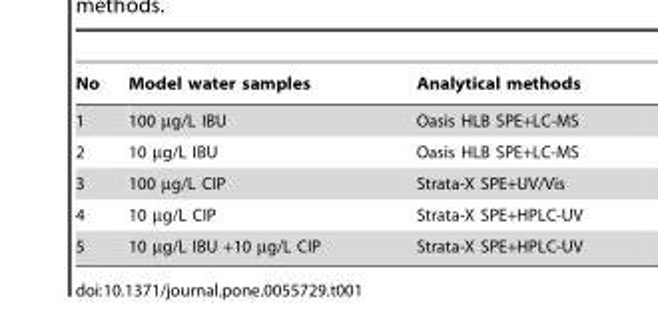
<table><thead><tr><td>No</td><td>Model water samples</td><td>Analytical methods</td></tr></thead><tbody><tr><td>1</td><td>100 µg/L IBU</td><td>Oasis HLB SPE+LC-MS</td></tr><tr><td>2</td><td>10 µg/L IBU</td><td>Oasis HLB SPE+LC-MS</td></tr><tr><td>3</td><td>100 µg/L CIP</td><td>Strata-X SPE+UV/Vis</td></tr><tr><td>4</td><td>10 µg/L CIP</td><td>Strata-X SPE+HPLC-UV</td></tr><tr><td>5</td><td>10 µg/L IBU +10 µg/L CIP</td><td>Strata-X SPE+HPLC-UV</td></tr></tbody></table>